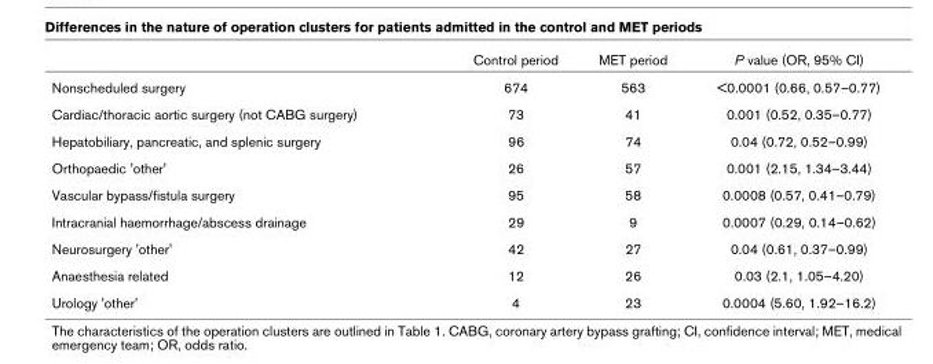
<table><thead><tr><td></td><td>Control period</td><td>MET period</td><td>P value (OR, 95% CI)</td></tr></thead><tbody><tr><td>Nonscheduled surgery</td><td>674</td><td>563</td><td>&lt;0.0001 (0.66, 0.57–0.77)</td></tr><tr><td>Cardiac/thoracic aortic surgery (not CABG surgery)</td><td>73</td><td>41</td><td>0.001 (0.52, 0.35–0.77)</td></tr><tr><td>Hepatobiliary, pancreatic, and splenic surgery</td><td>96</td><td>74</td><td>0.04 (0.72, 0.52–0.99)</td></tr><tr><td>Orthopaedic &#x27;other&#x27;</td><td>26</td><td>57</td><td>0.001 (2.15, 1.34–3.44)</td></tr><tr><td>Vascular bypass/fistula surgery</td><td>95</td><td>58</td><td>0.0008 (0.57, 0.41–0.79)</td></tr><tr><td>Intracranial haemorrhage/abscess drainage</td><td>29</td><td>9</td><td>0.0007 (0.29, 0.14–0.62)</td></tr><tr><td>Neurosurgery &#x27;other&#x27;</td><td>42</td><td>27</td><td>0.04 (0.61, 0.37–0.99)</td></tr><tr><td>Anaesthesia related</td><td>12</td><td>26</td><td>0.03 (2.1, 1.05–4.20)</td></tr><tr><td>Urology &#x27;other&#x27;</td><td>4</td><td>23</td><td>0.0004 (5.60, 1.92–16.2)</td></tr></tbody></table>